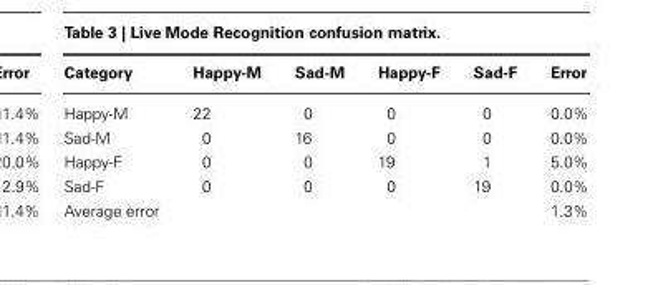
<table><thead><tr><td>Category</td><td>Happy-M</td><td>Sad-M</td><td>Happy-F</td><td>Sad-F</td><td>Error</td></tr></thead><tbody><tr><td>Happy-M</td><td>22</td><td>0</td><td>0</td><td>0</td><td>0.0%</td></tr><tr><td>Sad-M</td><td>0</td><td>16</td><td>0</td><td>0</td><td>0.0%</td></tr><tr><td>Happy-F</td><td>0</td><td>0</td><td>19</td><td>1</td><td>5.0%</td></tr><tr><td>Sad-F</td><td>0</td><td>0</td><td>0</td><td>19</td><td>0.0%</td></tr><tr><td>Average error</td><td></td><td></td><td></td><td></td><td>1.3%</td></tr></tbody></table>